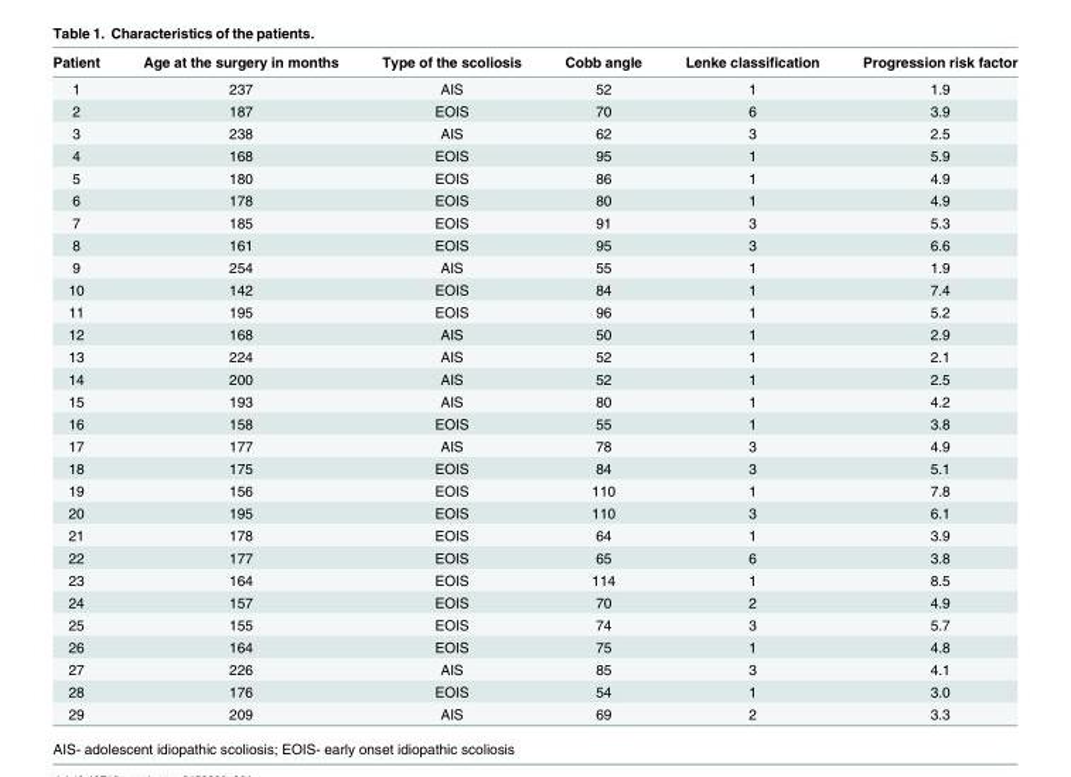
<table><thead><tr><td>Patient</td><td>Age at the surgery in months</td><td>Type of the scoliosis</td><td>Cobb angle</td><td>Lenke classification</td><td>Progression risk factor</td></tr></thead><tbody><tr><td>1</td><td>237</td><td>AIS</td><td>52</td><td>1</td><td>1.9</td></tr><tr><td>2</td><td>187</td><td>EOIS</td><td>70</td><td>6</td><td>3.9</td></tr><tr><td>3</td><td>238</td><td>AIS</td><td>62</td><td>3</td><td>2.5</td></tr><tr><td>4</td><td>168</td><td>EOIS</td><td>95</td><td>1</td><td>5.9</td></tr><tr><td>5</td><td>180</td><td>EOIS</td><td>86</td><td>1</td><td>4.9</td></tr><tr><td>6</td><td>178</td><td>EOIS</td><td>80</td><td>1</td><td>4.9</td></tr><tr><td>7</td><td>185</td><td>EOIS</td><td>91</td><td>3</td><td>5.3</td></tr><tr><td>8</td><td>161</td><td>EOIS</td><td>95</td><td>3</td><td>6.6</td></tr><tr><td>9</td><td>254</td><td>AIS</td><td>55</td><td>1</td><td>1.9</td></tr><tr><td>10</td><td>142</td><td>EOIS</td><td>84</td><td>1</td><td>7.4</td></tr><tr><td>11</td><td>195</td><td>EOIS</td><td>96</td><td>1</td><td>5.2</td></tr><tr><td>12</td><td>168</td><td>AIS</td><td>50</td><td>1</td><td>2.9</td></tr><tr><td>13</td><td>224</td><td>AIS</td><td>52</td><td>1</td><td>2.1</td></tr><tr><td>14</td><td>200</td><td>AIS</td><td>52</td><td>1</td><td>2.5</td></tr><tr><td>15</td><td>193</td><td>AIS</td><td>80</td><td>1</td><td>4.2</td></tr><tr><td>16</td><td>158</td><td>EOIS</td><td>55</td><td>1</td><td>3.8</td></tr><tr><td>17</td><td>177</td><td>AIS</td><td>78</td><td>3</td><td>4.9</td></tr><tr><td>18</td><td>175</td><td>EOIS</td><td>84</td><td>3</td><td>5.1</td></tr><tr><td>19</td><td>156</td><td>EOIS</td><td>110</td><td>1</td><td>7.8</td></tr><tr><td>20</td><td>195</td><td>EOIS</td><td>110</td><td>3</td><td>6.1</td></tr><tr><td>21</td><td>178</td><td>EOIS</td><td>64</td><td>1</td><td>3.9</td></tr><tr><td>22</td><td>177</td><td>EOIS</td><td>65</td><td>6</td><td>3.8</td></tr><tr><td>23</td><td>164</td><td>EOIS</td><td>114</td><td>1</td><td>8.5</td></tr><tr><td>24</td><td>157</td><td>EOIS</td><td>70</td><td>2</td><td>4.9</td></tr><tr><td>25</td><td>155</td><td>EOIS</td><td>74</td><td>3</td><td>5.7</td></tr><tr><td>26</td><td>164</td><td>EOIS</td><td>75</td><td>1</td><td>4.8</td></tr><tr><td>27</td><td>226</td><td>AIS</td><td>85</td><td>3</td><td>4.1</td></tr><tr><td>28</td><td>176</td><td>EOIS</td><td>54</td><td>1</td><td>3.0</td></tr><tr><td>29</td><td>209</td><td>AIS</td><td>69</td><td>2</td><td>3.3</td></tr></tbody></table>